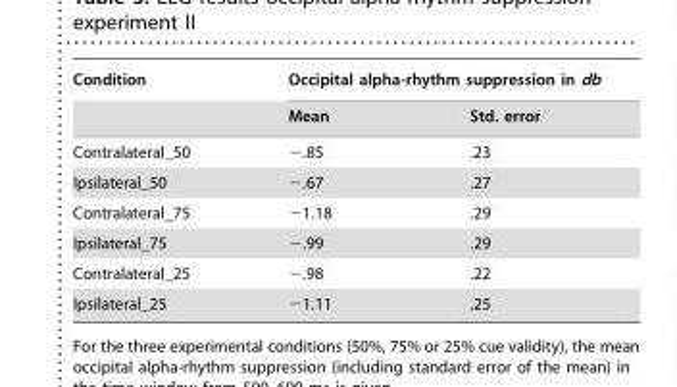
<table><thead><tr><td rowspan="2">Condition</td><td colspan="2">Occipital alpha-rhythm suppression in db</td></tr><tr><td>Mean</td><td>Std. error</td></tr></thead><tbody><tr><td>Contralateral_50</td><td>−.85</td><td>.23</td></tr><tr><td>Ipsilateral_50</td><td>−.67</td><td>.27</td></tr><tr><td>Contralateral_75</td><td>−1.18</td><td>.29</td></tr><tr><td>Ipsilateral_75</td><td>−.99</td><td>.29</td></tr><tr><td>Contralateral_25</td><td>−.98</td><td>.22</td></tr><tr><td>Ipsilateral_25</td><td>−1.11</td><td>.25</td></tr></tbody></table>